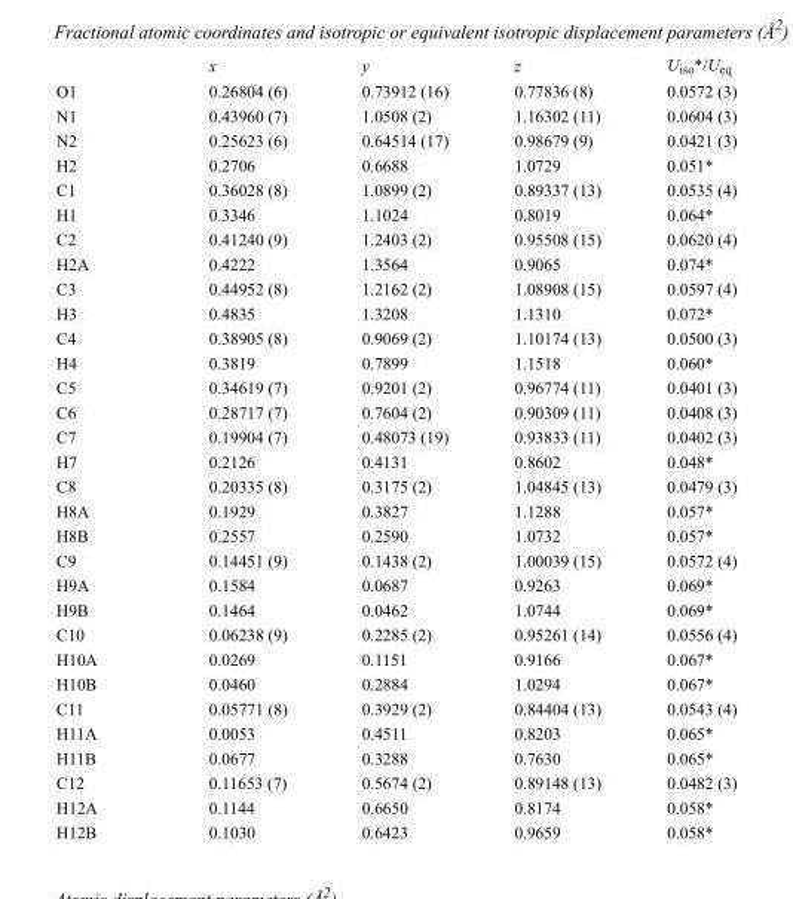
<table><thead><tr><td></td><td>x</td><td>y</td><td>z</td><td>U<sub>iso</sub>*/U<sub>eq</sub></td></tr></thead><tbody><tr><td>O1</td><td>0.26804 (6)</td><td>0.73912 (16)</td><td>0.77836 (8)</td><td>0.0572 (3)</td></tr><tr><td>N1</td><td>0.43960 (7)</td><td>1.0508 (2)</td><td>1.16302 (11)</td><td>0.0604 (3)</td></tr><tr><td>N2</td><td>0.25623 (6)</td><td>0.64514 (17)</td><td>0.98679 (9)</td><td>0.0421 (3)</td></tr><tr><td>H2</td><td>0.2706</td><td>0.6688</td><td>1.0729</td><td>0.051*</td></tr><tr><td>C1</td><td>0.36028 (8)</td><td>1.0899 (2)</td><td>0.89337 (13)</td><td>0.0535 (4)</td></tr><tr><td>H1</td><td>0.3346</td><td>1.1024</td><td>0.8019</td><td>0.064*</td></tr><tr><td>C2</td><td>0.41240 (9)</td><td>1.2403 (2)</td><td>0.95508 (15)</td><td>0.0620 (4)</td></tr><tr><td>H2A</td><td>0.4222</td><td>1.3564</td><td>0.9065</td><td>0.074*</td></tr><tr><td>C3</td><td>0.44952 (8)</td><td>1.2162 (2)</td><td>1.08908 (15)</td><td>0.0597 (4)</td></tr><tr><td>H3</td><td>0.4835</td><td>1.3208</td><td>1.1310</td><td>0.072*</td></tr><tr><td>C4</td><td>0.38905 (8)</td><td>0.9069 (2)</td><td>1.10174 (13)</td><td>0.0500 (3)</td></tr><tr><td>H4</td><td>0.3819</td><td>0.7899</td><td>1.1518</td><td>0.060*</td></tr><tr><td>C5</td><td>0.34619 (7)</td><td>0.9201 (2)</td><td>0.96774 (11)</td><td>0.0401 (3)</td></tr><tr><td>C6</td><td>0.28717 (7)</td><td>0.7604 (2)</td><td>0.90309 (11)</td><td>0.0408 (3)</td></tr><tr><td>C7</td><td>0.19904 (7)</td><td>0.48073 (19)</td><td>0.93833 (11)</td><td>0.0402 (3)</td></tr><tr><td>H7</td><td>0.2126</td><td>0.4131</td><td>0.8602</td><td>0.048*</td></tr><tr><td>C8</td><td>0.20335 (8)</td><td>0.3175 (2)</td><td>1.04845 (13)</td><td>0.0479 (3)</td></tr><tr><td>H8A</td><td>0.1929</td><td>0.3827</td><td>1.1288</td><td>0.057*</td></tr><tr><td>H8B</td><td>0.2557</td><td>0.2590</td><td>1.0732</td><td>0.057*</td></tr><tr><td>C9</td><td>0.14451 (9)</td><td>0.1438 (2)</td><td>1.00039 (15)</td><td>0.0572 (4)</td></tr><tr><td>H9A</td><td>0.1584</td><td>0.0687</td><td>0.9263</td><td>0.069*</td></tr><tr><td>H9B</td><td>0.1464</td><td>0.0462</td><td>1.0744</td><td>0.069*</td></tr><tr><td>C10</td><td>0.06238 (9)</td><td>0.2285 (2)</td><td>0.95261 (14)</td><td>0.0556 (4)</td></tr><tr><td>H10A</td><td>0.0269</td><td>0.1151</td><td>0.9166</td><td>0.067*</td></tr><tr><td>H10B</td><td>0.0460</td><td>0.2884</td><td>1.0294</td><td>0.067*</td></tr><tr><td>C11</td><td>0.05771 (8)</td><td>0.3929 (2)</td><td>0.84404 (13)</td><td>0.0543 (4)</td></tr><tr><td>H11A</td><td>0.0053</td><td>0.4511</td><td>0.8203</td><td>0.065*</td></tr><tr><td>H11B</td><td>0.0677</td><td>0.3288</td><td>0.7630</td><td>0.065*</td></tr><tr><td>C12</td><td>0.11653 (7)</td><td>0.5674 (2)</td><td>0.89148 (13)</td><td>0.0482 (3)</td></tr><tr><td>H12A</td><td>0.1144</td><td>0.6650</td><td>0.8174</td><td>0.058*</td></tr><tr><td>H12B</td><td>0.1030</td><td>0.6423</td><td>0.9659</td><td>0.058*</td></tr></tbody></table>